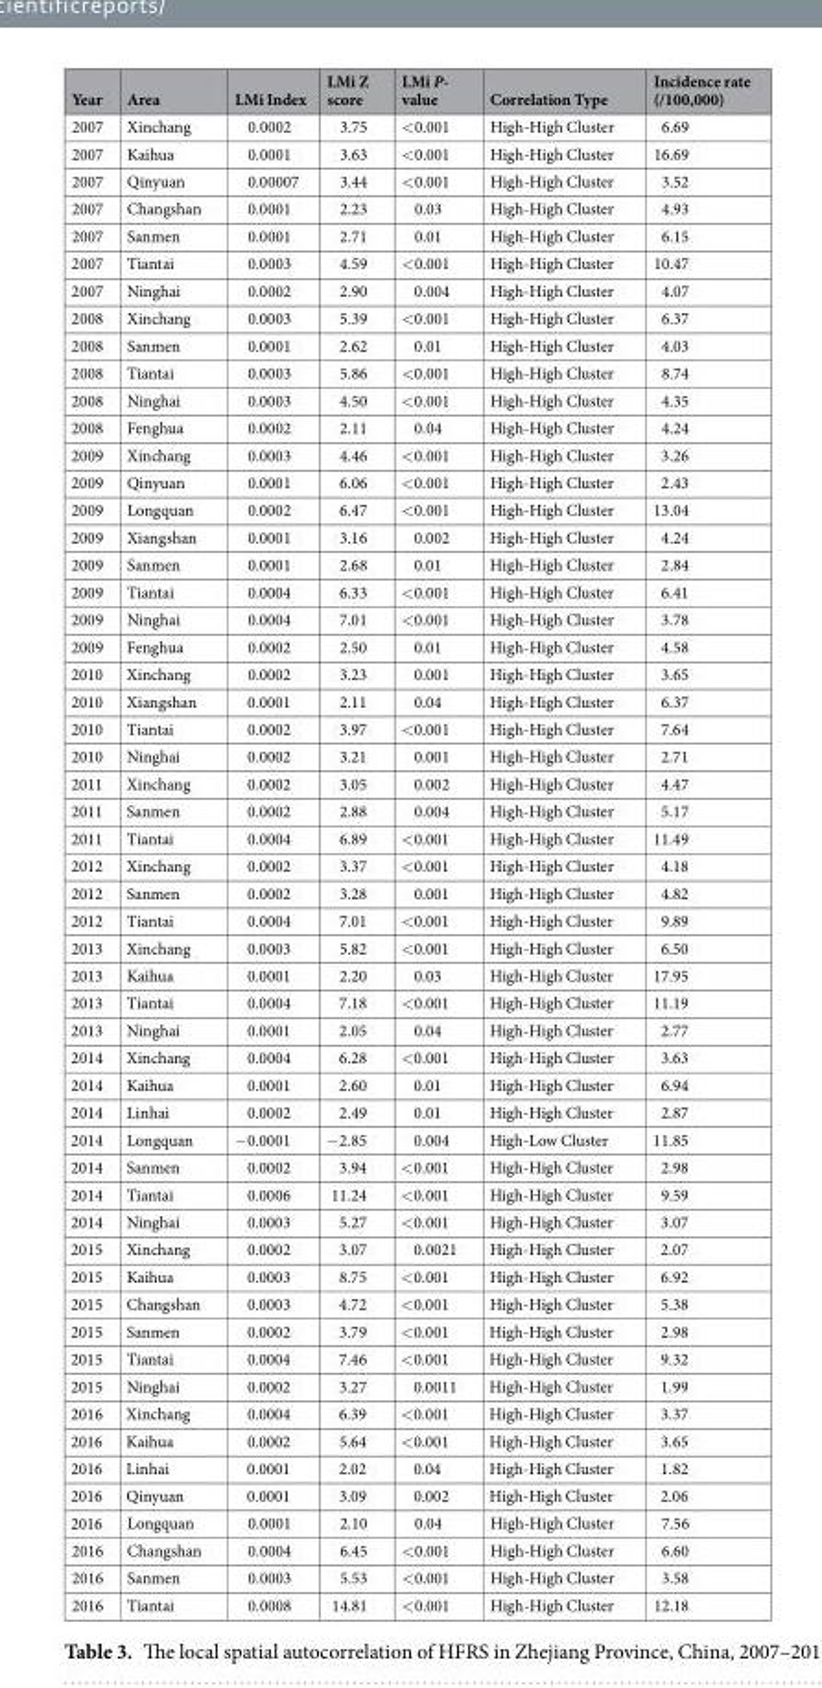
<table><thead><tr><td>Year</td><td>Area</td><td>LMi Index</td><td>LMi Z score</td><td>LMi P- value</td><td>Correlation Type</td><td>Incidence rate (/100,000)</td></tr></thead><tbody><tr><td>2007</td><td>Xinchang</td><td>0.0002</td><td>3.75</td><td>&lt;0.001</td><td>High-High Cluster</td><td>6.69</td></tr><tr><td>2007</td><td>Kaihua</td><td>0.0001</td><td>3.63</td><td>&lt;0.001</td><td>High-High Cluster</td><td>16.69</td></tr><tr><td>2007</td><td>Qinyuan</td><td>0.00007</td><td>3.44</td><td>&lt;0.001</td><td>High-High Cluster</td><td>3.52</td></tr><tr><td>2007</td><td>Changshan</td><td>0.0001</td><td>2.23</td><td>0.03</td><td>High-High Cluster</td><td>4.93</td></tr><tr><td>2007</td><td>Sanmen</td><td>0.0001</td><td>2.71</td><td>0.01</td><td>High-High Cluster</td><td>6.15</td></tr><tr><td>2007</td><td>Tiantai</td><td>0.0003</td><td>4.59</td><td>&lt;0.001</td><td>High-High Cluster</td><td>10.47</td></tr><tr><td>2007</td><td>Ninghai</td><td>0.0002</td><td>2.90</td><td>0.004</td><td>High-High Cluster</td><td>4.07</td></tr><tr><td>2008</td><td>Xinchang</td><td>0.0003</td><td>5.39</td><td>&lt;0.001</td><td>High-High Cluster</td><td>6.37</td></tr><tr><td>2008</td><td>Sanmen</td><td>0.0001</td><td>2.62</td><td>0.01</td><td>High-High Cluster</td><td>4.03</td></tr><tr><td>2008</td><td>Tiantai</td><td>0.0003</td><td>5.86</td><td>&lt;0.001</td><td>High-High Cluster</td><td>8.74</td></tr><tr><td>2008</td><td>Ninghai</td><td>0.0003</td><td>4.50</td><td>&lt;0.001</td><td>High-High Cluster</td><td>4.35</td></tr><tr><td>2008</td><td>Fenghua</td><td>0.0002</td><td>2.11</td><td>0.04</td><td>High-High Cluster</td><td>4.24</td></tr><tr><td>2009</td><td>Xinchang</td><td>0.0003</td><td>4.46</td><td>&lt;0.001</td><td>High-High Cluster</td><td>3.26</td></tr><tr><td>2009</td><td>Qinyuan</td><td>0.0001</td><td>6.06</td><td>&lt;0.001</td><td>High-High Cluster</td><td>2.43</td></tr><tr><td>2009</td><td>Longquan</td><td>0.0002</td><td>6.47</td><td>&lt;0.001</td><td>High-High Cluster</td><td>13.04</td></tr><tr><td>2009</td><td>Xiangshan</td><td>0.0001</td><td>3.16</td><td>0.002</td><td>High-High Cluster</td><td>4.24</td></tr><tr><td>2009</td><td>Sanmen</td><td>0.0001</td><td>2.68</td><td>0.01</td><td>High-High Cluster</td><td>2.84</td></tr><tr><td>2009</td><td>Tiantai</td><td>0.0004</td><td>6.33</td><td>&lt;0.001</td><td>High-High Cluster</td><td>6.41</td></tr><tr><td>2009</td><td>Ninghai</td><td>0.0004</td><td>7.01</td><td>&lt;0.001</td><td>High-High Cluster</td><td>3.78</td></tr><tr><td>2009</td><td>Fenghua</td><td>0.0002</td><td>2.50</td><td>0.01</td><td>High-High Cluster</td><td>4.58</td></tr><tr><td>2010</td><td>Xinchang</td><td>0.0002</td><td>3.23</td><td>0.001</td><td>High-High Cluster</td><td>3.65</td></tr><tr><td>2010</td><td>Xiangshan</td><td>0.0001</td><td>2.11</td><td>0.04</td><td>High-High Cluster</td><td>6.37</td></tr><tr><td>2010</td><td>Tiantai</td><td>0.0002</td><td>3.97</td><td>&lt;0.001</td><td>High-High Cluster</td><td>7.64</td></tr><tr><td>2010</td><td>Ninghai</td><td>0.0002</td><td>3.21</td><td>0.001</td><td>High-High Cluster</td><td>2.71</td></tr><tr><td>2011</td><td>Xinchang</td><td>0.0002</td><td>3.05</td><td>0.002</td><td>High-High Cluster</td><td>4.47</td></tr><tr><td>2011</td><td>Sanmen</td><td>0.0002</td><td>2.88</td><td>0.004</td><td>High-High Cluster</td><td>5.17</td></tr><tr><td>2011</td><td>Tiantai</td><td>0.0004</td><td>6.89</td><td>&lt;0.001</td><td>High-High Cluster</td><td>11.49</td></tr><tr><td>2012</td><td>Xinchang</td><td>0.0002</td><td>3.37</td><td>&lt;0.001</td><td>High-High Cluster</td><td>4.18</td></tr><tr><td>2012</td><td>Sanmen</td><td>0.0002</td><td>3.28</td><td>0.001</td><td>High-High Cluster</td><td>4.82</td></tr><tr><td>2012</td><td>Tiantai</td><td>0.0004</td><td>7.01</td><td>&lt;0.001</td><td>High-High Cluster</td><td>9.89</td></tr><tr><td>2013</td><td>Xinchang</td><td>0.0003</td><td>5.82</td><td>&lt;0.001</td><td>High-High Cluster</td><td>6.50</td></tr><tr><td>2013</td><td>Kaihua</td><td>0.0001</td><td>2.20</td><td>0.03</td><td>High-High Cluster</td><td>17.95</td></tr><tr><td>2013</td><td>Tiantai</td><td>0.0004</td><td>7.18</td><td>&lt;0.001</td><td>High-High Cluster</td><td>11.19</td></tr><tr><td>2013</td><td>Ninghai</td><td>0.0001</td><td>2.05</td><td>0.04</td><td>High-High Cluster</td><td>2.77</td></tr><tr><td>2014</td><td>Xinchang</td><td>0.0004</td><td>6.28</td><td>&lt;0.001</td><td>High-High Cluster</td><td>3.63</td></tr><tr><td>2014</td><td>Kaihua</td><td>0.0001</td><td>2.60</td><td>0.01</td><td>High-High Cluster</td><td>6.94</td></tr><tr><td>2014</td><td>Linhai</td><td>0.0002</td><td>2.49</td><td>0.01</td><td>High-High Cluster</td><td>2.87</td></tr><tr><td>2014</td><td>Longquan</td><td>−0.0001</td><td>−2.85</td><td>0.004</td><td>High-Low Cluster</td><td>11.85</td></tr><tr><td>2014</td><td>Sanmen</td><td>0.0002</td><td>3.94</td><td>&lt;0.001</td><td>High-High Cluster</td><td>2.98</td></tr><tr><td>2014</td><td>Tiantai</td><td>0.0006</td><td>11.24</td><td>&lt;0.001</td><td>High-High Cluster</td><td>9.59</td></tr><tr><td>2014</td><td>Ninghai</td><td>0.0003</td><td>5.27</td><td>&lt;0.001</td><td>High-High Cluster</td><td>3.07</td></tr><tr><td>2015</td><td>Xinchang</td><td>0.0002</td><td>3.07</td><td>0.0021</td><td>High-High Cluster</td><td>2.07</td></tr><tr><td>2015</td><td>Kaihua</td><td>0.0003</td><td>8.75</td><td>&lt;0.001</td><td>High-High Cluster</td><td>6.92</td></tr><tr><td>2015</td><td>Changshan</td><td>0.0003</td><td>4.72</td><td>&lt;0.001</td><td>High-High Cluster</td><td>5.38</td></tr><tr><td>2015</td><td>Sanmen</td><td>0.0002</td><td>3.79</td><td>&lt;0.001</td><td>High-High Cluster</td><td>2.98</td></tr><tr><td>2015</td><td>Tiantai</td><td>0.0004</td><td>7.46</td><td>&lt;0.001</td><td>High-High Cluster</td><td>9.32</td></tr><tr><td>2015</td><td>Ninghai</td><td>0.0002</td><td>3.27</td><td>0.0011</td><td>High-High Cluster</td><td>1.99</td></tr><tr><td>2016</td><td>Xinchang</td><td>0.0004</td><td>6.39</td><td>&lt;0.001</td><td>High-High Cluster</td><td>3.37</td></tr><tr><td>2016</td><td>Kaihua</td><td>0.0002</td><td>5.64</td><td>&lt;0.001</td><td>High-High Cluster</td><td>3.65</td></tr><tr><td>2016</td><td>Linhai</td><td>0.0001</td><td>2.02</td><td>0.04</td><td>High-High Cluster</td><td>1.82</td></tr><tr><td>2016</td><td>Qinyuan</td><td>0.0001</td><td>3.09</td><td>0.002</td><td>High-High Cluster</td><td>2.06</td></tr><tr><td>2016</td><td>Longquan</td><td>0.0001</td><td>2.10</td><td>0.04</td><td>High-High Cluster</td><td>7.56</td></tr><tr><td>2016</td><td>Changshan</td><td>0.0004</td><td>6.45</td><td>&lt;0.001</td><td>High-High Cluster</td><td>6.60</td></tr><tr><td>2016</td><td>Sanmen</td><td>0.0003</td><td>5.53</td><td>&lt;0.001</td><td>High-High Cluster</td><td>3.58</td></tr><tr><td>2016</td><td>Tiantai</td><td>0.0008</td><td>14.81</td><td>&lt;0.001</td><td>High-High Cluster</td><td>12.18</td></tr></tbody></table>